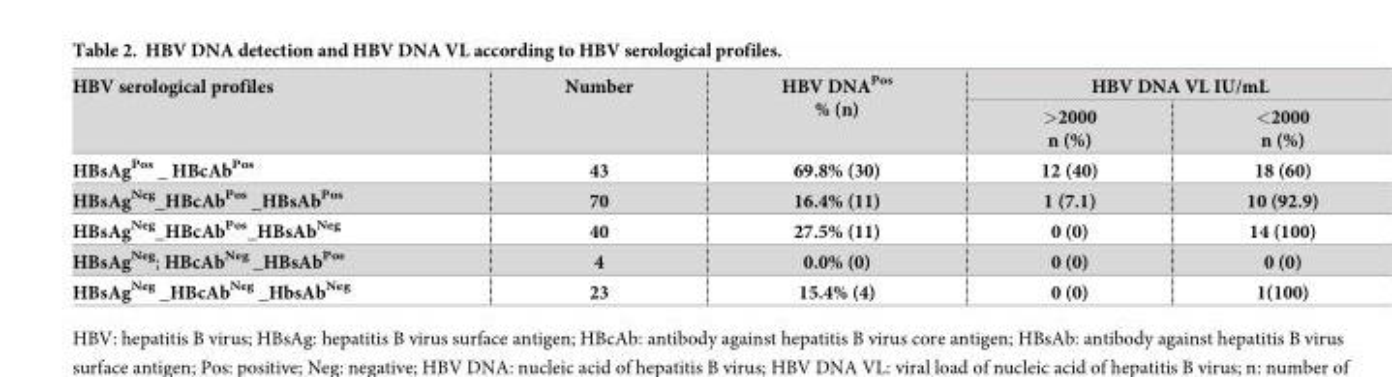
<table><thead><tr><td rowspan="2">HBV serological profiles</td><td rowspan="2">Number</td><td rowspan="2">HBV DNA<sup>Pos</sup> % (n)</td><td colspan="2">HBV DNA VL IU/mL</td></tr><tr><td>&gt;2000 n (%)</td><td>&lt;2000 n (%)</td></tr></thead><tbody><tr><td>HBsAg<sup>Pos</sup> _ HBcAb<sup>Pos</sup></td><td>43</td><td>69.8% (30)</td><td>12 (40)</td><td>18 (60)</td></tr><tr><td>HBsAg<sup>Neg</sup>_HBcAb<sup>Pos</sup> _HBsAb<sup>Pos</sup></td><td>70</td><td>16.4% (11)</td><td>1 (7.1)</td><td>10 (92.9)</td></tr><tr><td>HBsAg<sup>Neg</sup>_HBcAb<sup>Pos</sup>_HBsAb<sup>Neg</sup></td><td>40</td><td>27.5% (11)</td><td>0 (0)</td><td>14 (100)</td></tr><tr><td>HBsAg<sup>Neg</sup>; HBcAb<sup>Neg</sup> _HBsAb<sup>Pos</sup></td><td>4</td><td>0.0% (0)</td><td>0 (0)</td><td>0 (0)</td></tr><tr><td>HBsAg<sup>Neg</sup> _HBcAb<sup>Neg</sup> _HbsAb<sup>Neg</sup></td><td>23</td><td>15.4% (4)</td><td>0 (0)</td><td>1(100)</td></tr></tbody></table>